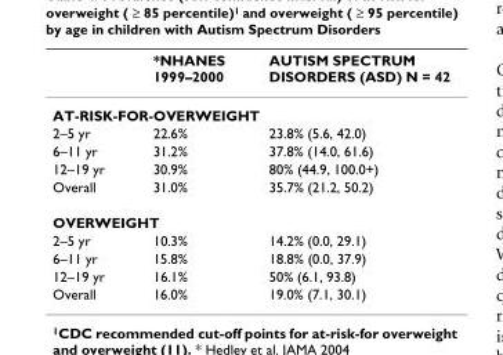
<table><thead><tr><td></td><td>*NHANES 1999–2000</td><td>AUTISM SPECTRUM DISORDERS (ASD) N = 42</td></tr></thead><tbody><tr><td colspan="3">AT-RISK-FOR-OVERWEIGHT</td></tr><tr><td>2–5 yr</td><td>22.6%</td><td>23.8% (5.6, 42.0)</td></tr><tr><td>6–11 yr</td><td>31.2%</td><td>37.8% (14.0, 61.6)</td></tr><tr><td>12–19 yr</td><td>30.9%</td><td>80% (44.9, 100.0+)</td></tr><tr><td>Overall</td><td>31.0%</td><td>35.7% (21.2, 50.2)</td></tr><tr><td colspan="3">OVERWEIGHT</td></tr><tr><td>2–5 yr</td><td>10.3%</td><td>14.2% (0.0, 29.1)</td></tr><tr><td>6–11 yr</td><td>15.8%</td><td>18.8% (0.0, 37.9)</td></tr><tr><td>12–19 yr</td><td>16.1%</td><td>50% (6.1, 93.8)</td></tr><tr><td>Overall</td><td>16.0%</td><td>19.0% (7.1, 30.1)</td></tr></tbody></table>